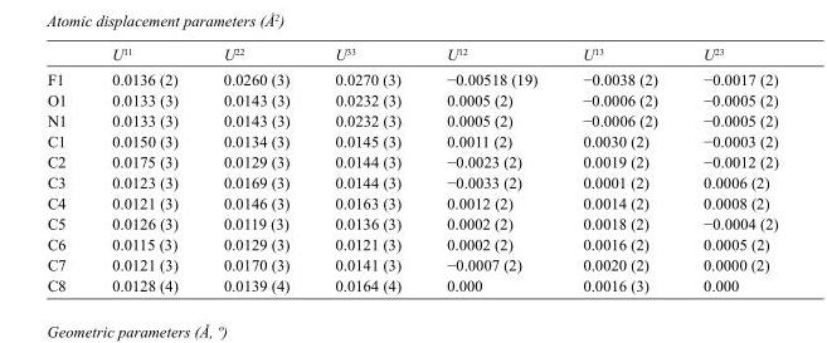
<table><thead><tr><td></td><td>U<sup>11</sup></td><td>U<sup>22</sup></td><td>U<sup>33</sup></td><td>U<sup>12</sup></td><td>U<sup>13</sup></td><td>U<sup>23</sup></td></tr></thead><tbody><tr><td>F1</td><td>0.0136 (2)</td><td>0.0260 (3)</td><td>0.0270 (3)</td><td>−0.00518 (19)</td><td>−0.0038 (2)</td><td>−0.0017 (2)</td></tr><tr><td>O1</td><td>0.0133 (3)</td><td>0.0143 (3)</td><td>0.0232 (3)</td><td>0.0005 (2)</td><td>−0.0006 (2)</td><td>−0.0005 (2)</td></tr><tr><td>N1</td><td>0.0133 (3)</td><td>0.0143 (3)</td><td>0.0232 (3)</td><td>0.0005 (2)</td><td>−0.0006 (2)</td><td>−0.0005 (2)</td></tr><tr><td>C1</td><td>0.0150 (3)</td><td>0.0134 (3)</td><td>0.0145 (3)</td><td>0.0011 (2)</td><td>0.0030 (2)</td><td>−0.0003 (2)</td></tr><tr><td>C2</td><td>0.0175 (3)</td><td>0.0129 (3)</td><td>0.0144 (3)</td><td>−0.0023 (2)</td><td>0.0019 (2)</td><td>−0.0012 (2)</td></tr><tr><td>C3</td><td>0.0123 (3)</td><td>0.0169 (3)</td><td>0.0144 (3)</td><td>−0.0033 (2)</td><td>0.0001 (2)</td><td>0.0006 (2)</td></tr><tr><td>C4</td><td>0.0121 (3)</td><td>0.0146 (3)</td><td>0.0163 (3)</td><td>0.0012 (2)</td><td>0.0014 (2)</td><td>0.0008 (2)</td></tr><tr><td>C5</td><td>0.0126 (3)</td><td>0.0119 (3)</td><td>0.0136 (3)</td><td>0.0002 (2)</td><td>0.0018 (2)</td><td>−0.0004 (2)</td></tr><tr><td>C6</td><td>0.0115 (3)</td><td>0.0129 (3)</td><td>0.0121 (3)</td><td>0.0002 (2)</td><td>0.0016 (2)</td><td>0.0005 (2)</td></tr><tr><td>C7</td><td>0.0121 (3)</td><td>0.0170 (3)</td><td>0.0141 (3)</td><td>−0.0007 (2)</td><td>0.0020 (2)</td><td>0.0000 (2)</td></tr><tr><td>C8</td><td>0.0128 (4)</td><td>0.0139 (4)</td><td>0.0164 (4)</td><td>0.000</td><td>0.0016 (3)</td><td>0.000</td></tr></tbody></table>